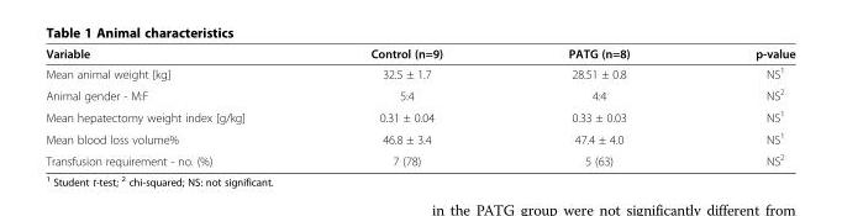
<table><thead><tr><td>Variable</td><td>Control (n=9)</td><td>PATG (n=8)</td><td>p-value</td></tr></thead><tbody><tr><td>Mean animal weight [kg]</td><td>32.5 ± 1.7</td><td>28.51 ± 0.8</td><td>NS<sup>1</sup></td></tr><tr><td>Animal gender - M:F</td><td>5:4</td><td>4:4</td><td>NS<sup>2</sup></td></tr><tr><td>Mean hepatectomy weight index [g/kg]</td><td>0.31 ± 0.04</td><td>0.33 ± 0.03</td><td>NS<sup>1</sup></td></tr><tr><td>Mean blood loss volume%</td><td>46.8 ± 3.4</td><td>47.4 ± 4.0</td><td>NS<sup>1</sup></td></tr><tr><td>Transfusion requirement - no. (%)</td><td>7 (78)</td><td>5 (63)</td><td>NS<sup>2</sup></td></tr></tbody></table>